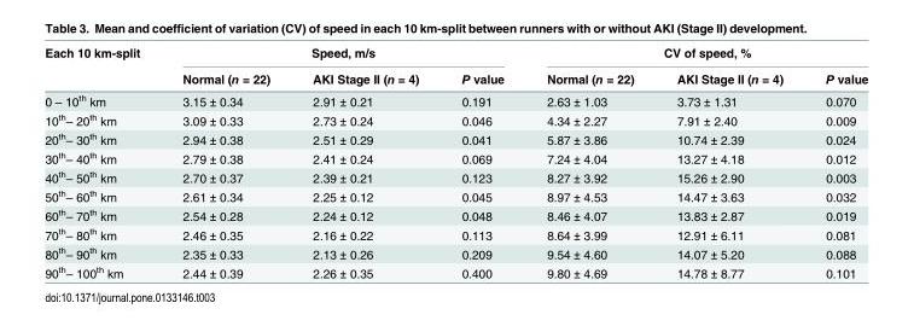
<table><thead><tr><td rowspan="2">Each 10 km-split</td><td colspan="3">Speed, m/s</td><td colspan="3">CV of speed, %</td></tr><tr><td>Normal (n = 22)</td><td>AKI Stage II (n = 4)</td><td>P value</td><td>Normal (n = 22)</td><td>AKI Stage II (n = 4)</td><td>P value</td></tr></thead><tbody><tr><td>0 – 10<sup>th</sup> km</td><td>3.15 ± 0.34</td><td>2.91 ± 0.21</td><td>0.191</td><td>2.63 ± 1.03</td><td>3.73 ± 1.31</td><td>0.070</td></tr><tr><td>10<sup>th</sup>– 20<sup>th</sup> km</td><td>3.09 ± 0.33</td><td>2.73 ± 0.24</td><td>0.046</td><td>4.34 ± 2.27</td><td>7.91 ± 2.40</td><td>0.009</td></tr><tr><td>20<sup>th</sup>– 30<sup>th</sup> km</td><td>2.94 ± 0.38</td><td>2.51 ± 0.29</td><td>0.041</td><td>5.87 ± 3.86</td><td>10.74 ± 2.39</td><td>0.024</td></tr><tr><td>30<sup>th</sup>– 40<sup>th</sup> km</td><td>2.79 ± 0.38</td><td>2.41 ± 0.24</td><td>0.069</td><td>7.24 ± 4.04</td><td>13.27 ± 4.18</td><td>0.012</td></tr><tr><td>40<sup>th</sup>– 50<sup>th</sup> km</td><td>2.70 ± 0.37</td><td>2.39 ± 0.21</td><td>0.123</td><td>8.27 ± 3.92</td><td>15.26 ± 2.90</td><td>0.003</td></tr><tr><td>50<sup>th</sup>– 60<sup>th</sup> km</td><td>2.61 ± 0.34</td><td>2.25 ± 0.12</td><td>0.045</td><td>8.97 ± 4.53</td><td>14.47 ± 3.63</td><td>0.032</td></tr><tr><td>60<sup>th</sup>– 70<sup>th</sup> km</td><td>2.54 ± 0.28</td><td>2.24 ± 0.12</td><td>0.048</td><td>8.46 ± 4.07</td><td>13.83 ± 2.87</td><td>0.019</td></tr><tr><td>70<sup>th</sup>– 80<sup>th</sup> km</td><td>2.46 ± 0.35</td><td>2.16 ± 0.22</td><td>0.113</td><td>8.64 ± 3.99</td><td>12.91 ± 6.11</td><td>0.081</td></tr><tr><td>80<sup>th</sup>– 90<sup>th</sup> km</td><td>2.35 ± 0.33</td><td>2.13 ± 0.26</td><td>0.209</td><td>9.54 ± 4.60</td><td>14.07 ± 5.20</td><td>0.088</td></tr><tr><td>90<sup>th</sup>– 100<sup>th</sup> km</td><td>2.44 ± 0.39</td><td>2.26 ± 0.35</td><td>0.400</td><td>9.80 ± 4.69</td><td>14.78 ± 8.77</td><td>0.101</td></tr></tbody></table>